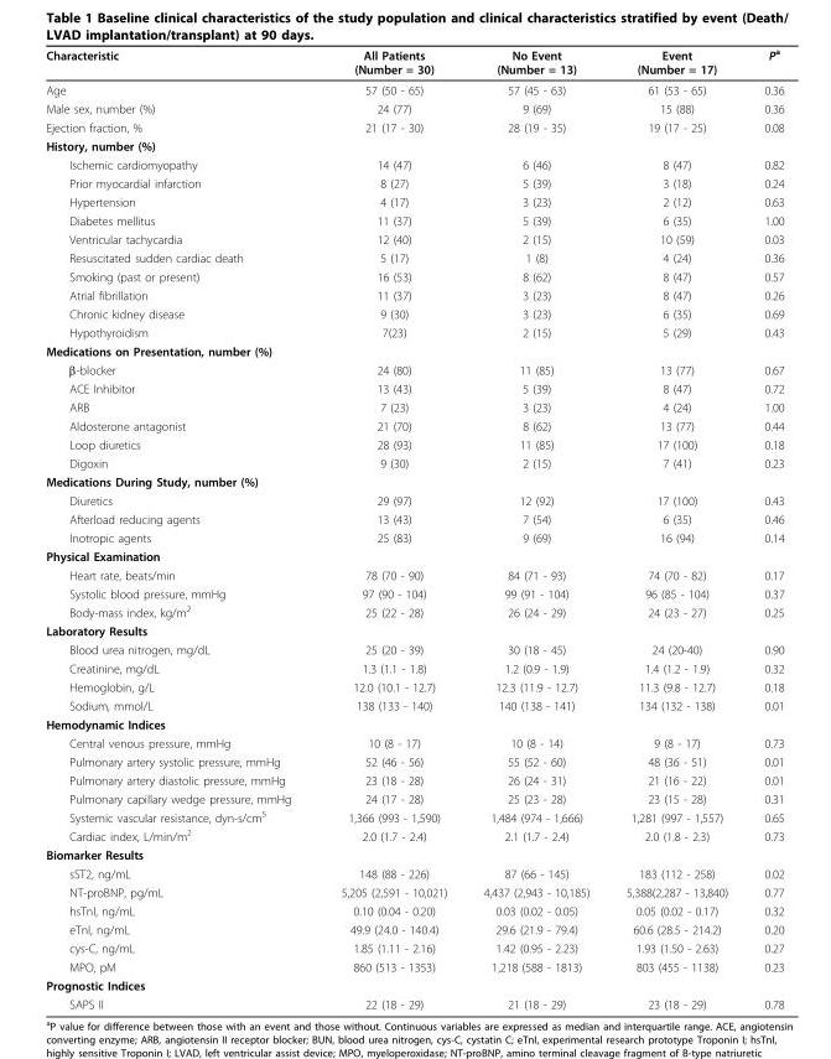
<table><thead><tr><td>Characteristic</td><td>All Patients (Number = 30)</td><td>No Event (Number = 13)</td><td>Event (Number = 17)</td><td>P<sup>a</sup></td></tr></thead><tbody><tr><td>Age</td><td>57 (50 - 65)</td><td>57 (45 - 63)</td><td>61 (53 - 65)</td><td>0.36</td></tr><tr><td>Male sex, number (%)</td><td>24 (77)</td><td>9 (69)</td><td>15 (88)</td><td>0.36</td></tr><tr><td>Ejection fraction, %</td><td>21 (17 - 30)</td><td>28 (19 - 35)</td><td>19 (17 - 25)</td><td>0.08</td></tr><tr><td colspan="5">History, number (%)</td></tr><tr><td>Ischemic cardiomyopathy</td><td>14 (47)</td><td>6 (46)</td><td>8 (47)</td><td>0.82</td></tr><tr><td>Prior myocardial infarction</td><td>8 (27)</td><td>5 (39)</td><td>3 (18)</td><td>0.24</td></tr><tr><td>Hypertension</td><td>4 (17)</td><td>3 (23)</td><td>2 (12)</td><td>0.63</td></tr><tr><td>Diabetes mellitus</td><td>11 (37)</td><td>5 (39)</td><td>6 (35)</td><td>1.00</td></tr><tr><td>Ventricular tachycardia</td><td>12 (40)</td><td>2 (15)</td><td>10 (59)</td><td>0.03</td></tr><tr><td>Resuscitated sudden cardiac death</td><td>5 (17)</td><td>1 (8)</td><td>4 (24)</td><td>0.36</td></tr><tr><td>Smoking (past or present)</td><td>16 (53)</td><td>8 (62)</td><td>8 (47)</td><td>0.57</td></tr><tr><td>Atrial fibrillation</td><td>11 (37)</td><td>3 (23)</td><td>8 (47)</td><td>0.26</td></tr><tr><td>Chronic kidney disease</td><td>9 (30)</td><td>3 (23)</td><td>6 (35)</td><td>0.69</td></tr><tr><td>Hypothyroidism</td><td>7(23)</td><td>2 (15)</td><td>5 (29)</td><td>0.43</td></tr><tr><td colspan="5">Medications on Presentation, number (%)</td></tr><tr><td>β-blocker</td><td>24 (80)</td><td>11 (85)</td><td>13 (77)</td><td>0.67</td></tr><tr><td>ACE Inhibitor</td><td>13 (43)</td><td>5 (39)</td><td>8 (47)</td><td>0.72</td></tr><tr><td>ARB</td><td>7 (23)</td><td>3 (23)</td><td>4 (24)</td><td>1.00</td></tr><tr><td>Aldosterone antagonist</td><td>21 (70)</td><td>8 (62)</td><td>13 (77)</td><td>0.44</td></tr><tr><td>Loop diuretics</td><td>28 (93)</td><td>11 (85)</td><td>17 (100)</td><td>0.18</td></tr><tr><td>Digoxin</td><td>9 (30)</td><td>2 (15)</td><td>7 (41)</td><td>0.23</td></tr><tr><td colspan="5">Medications During Study, number (%)</td></tr><tr><td>Diuretics</td><td>29 (97)</td><td>12 (92)</td><td>17 (100)</td><td>0.43</td></tr><tr><td>Afterload reducing agents</td><td>13 (43)</td><td>7 (54)</td><td>6 (35)</td><td>0.46</td></tr><tr><td>Inotropic agents</td><td>25 (83)</td><td>9 (69)</td><td>16 (94)</td><td>0.14</td></tr><tr><td colspan="5">Physical Examination</td></tr><tr><td>Heart rate, beats/min</td><td>78 (70 - 90)</td><td>84 (71 - 93)</td><td>74 (70 - 82)</td><td>0.17</td></tr><tr><td>Systolic blood pressure, mmHg</td><td>97 (90 - 104)</td><td>99 (91 - 104)</td><td>96 (85 - 104)</td><td>0.37</td></tr><tr><td>Body-mass index, kg/m<sup>2</sup></td><td>25 (22 - 28)</td><td>26 (24 - 29)</td><td>24 (23 - 27)</td><td>0.25</td></tr><tr><td colspan="5">Laboratory Results</td></tr><tr><td>Blood urea nitrogen, mg/dL</td><td>25 (20 - 39)</td><td>30 (18 - 45)</td><td>24 (20-40)</td><td>0.90</td></tr><tr><td>Creatinine, mg/dL</td><td>1.3 (1.1 - 1.8)</td><td>1.2 (0.9 - 1.9)</td><td>1.4 (1.2 - 1.9)</td><td>0.32</td></tr><tr><td>Hemoglobin, g/L</td><td>12.0 (10.1 - 12.7)</td><td>12.3 (11.9 - 12.7)</td><td>11.3 (9.8 - 12.7)</td><td>0.18</td></tr><tr><td>Sodium, mmol/L</td><td>138 (133 - 140)</td><td>140 (138 - 141)</td><td>134 (132 - 138)</td><td>0.01</td></tr><tr><td colspan="5">Hemodynamic Indices</td></tr><tr><td>Central venous pressure, mmHg</td><td>10 (8 - 17)</td><td>10 (8 - 14)</td><td>9 (8 - 17)</td><td>0.73</td></tr><tr><td>Pulmonary artery systolic pressure, mmHg</td><td>52 (46 - 56)</td><td>55 (52 - 60)</td><td>48 (36 - 51)</td><td>0.01</td></tr><tr><td>Pulmonary artery diastolic pressure, mmHg</td><td>23 (18 - 28)</td><td>26 (24 - 31)</td><td>21 (16 - 22)</td><td>0.01</td></tr><tr><td>Pulmonary capillary wedge pressure, mmHg</td><td>24 (17 - 28)</td><td>25 (23 - 28)</td><td>23 (15 - 28)</td><td>0.31</td></tr><tr><td>Systemic vascular resistance, dyn-s/cm<sup>5</sup></td><td>1,366 (993 - 1,590)</td><td>1,484 (974 - 1,666)</td><td>1,281 (997 - 1,557)</td><td>0.65</td></tr><tr><td>Cardiac index, L/min/m<sup>2</sup></td><td>2.0 (1.7 - 2.4)</td><td>2.1 (1.7 - 2.4)</td><td>2.0 (1.8 - 2.3)</td><td>0.73</td></tr><tr><td colspan="5">Biomarker Results</td></tr><tr><td>sST2, ng/mL</td><td>148 (88 - 226)</td><td>87 (66 - 145)</td><td>183 (112 - 258)</td><td>0.02</td></tr><tr><td>NT-proBNP, pg/mL</td><td>5,205 (2,591 - 10,021)</td><td>4,437 (2,943 - 10,185)</td><td>5,388(2,287 - 13,840)</td><td>0.77</td></tr><tr><td>hsTnI, ng/mL</td><td>0.10 (0.04 - 0.20)</td><td>0.03 (0.02 - 0.05)</td><td>0.05 (0.02 - 0.17)</td><td>0.32</td></tr><tr><td>eTnI, ng/mL</td><td>49.9 (24.0 - 140.4)</td><td>29.6 (21.9 - 79.4)</td><td>60.6 (28.5 - 214.2)</td><td>0.20</td></tr><tr><td>cys-C, ng/mL</td><td>1.85 (1.11 - 2.16)</td><td>1.42 (0.95 - 2.23)</td><td>1.93 (1.50 - 2.63)</td><td>0.27</td></tr><tr><td>MPO, pM</td><td>860 (513 - 1353)</td><td>1,218 (588 - 1813)</td><td>803 (455 - 1138)</td><td>0.23</td></tr><tr><td colspan="5">Prognostic Indices</td></tr><tr><td>SAPS II</td><td>22 (18 - 29)</td><td>21 (18 - 29)</td><td>23 (18 - 29)</td><td>0.78</td></tr></tbody></table>